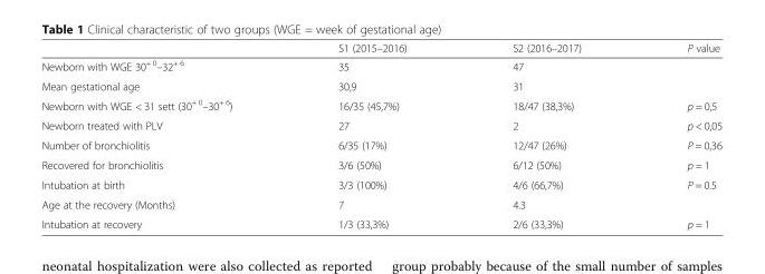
<table><thead><tr><td></td><td>S1 (2015–2016)</td><td>S2 (2016–2017)</td><td>P value</td></tr></thead><tbody><tr><td>Newborn with WGE 30<sup>+ 0</sup>–32<sup>+ 6</sup></td><td>35</td><td>47</td><td></td></tr><tr><td>Mean gestational age</td><td>30,9</td><td>31</td><td></td></tr><tr><td>Newborn with WGE &lt; 31 sett (30<sup>+ 0</sup>–30<sup>+ 6</sup>)</td><td>16/35 (45,7%)</td><td>18/47 (38,3%)</td><td>p = 0,5</td></tr><tr><td>Newborn treated with PLV</td><td>27</td><td>2</td><td>p &lt; 0,05</td></tr><tr><td>Number of bronchiolitis</td><td>6/35 (17%)</td><td>12/47 (26%)</td><td>P = 0,36</td></tr><tr><td>Recovered for bronchiolitis</td><td>3/6 (50%)</td><td>6/12 (50%)</td><td>p = 1</td></tr><tr><td>Intubation at birth</td><td>3/3 (100%)</td><td>4/6 (66,7%)</td><td>P = 0.5</td></tr><tr><td>Age at the recovery (Months)</td><td>7</td><td>4.3</td><td></td></tr><tr><td>Intubation at recovery</td><td>1/3 (33,3%)</td><td>2/6 (33,3%)</td><td>p = 1</td></tr></tbody></table>